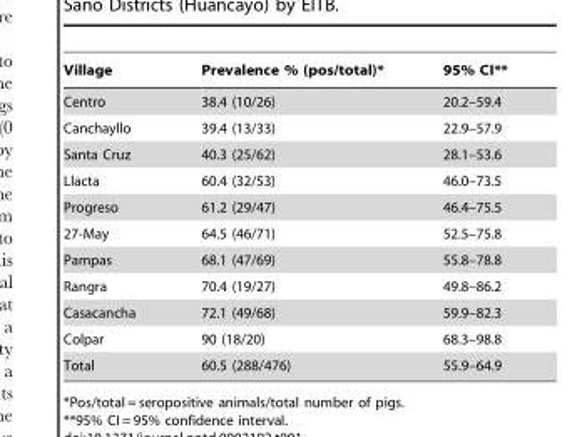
<table><thead><tr><td>Village</td><td>Prevalence % (pos/total)*</td><td>95% CI**</td></tr></thead><tbody><tr><td>Centro</td><td>38.4 (10/26)</td><td>20.2–59.4</td></tr><tr><td>Canchayllo</td><td>39.4 (13/33)</td><td>22.9–57.9</td></tr><tr><td>Santa Cruz</td><td>40.3 (25/62)</td><td>28.1–53.6</td></tr><tr><td>Llacta</td><td>60.4 (32/53)</td><td>46.0–73.5</td></tr><tr><td>Progreso</td><td>61.2 (29/47)</td><td>46.4–75.5</td></tr><tr><td>27-May</td><td>64.5 (46/71)</td><td>52.5–75.8</td></tr><tr><td>Pampas</td><td>68.1 (47/69)</td><td>55.8–78.8</td></tr><tr><td>Rangra</td><td>70.4 (19/27)</td><td>49.8–86.2</td></tr><tr><td>Casacancha</td><td>72.1 (49/68)</td><td>59.9–82.3</td></tr><tr><td>Colpar</td><td>90 (18/20)</td><td>68.3–98.8</td></tr><tr><td>Total</td><td>60.5 (288/476)</td><td>55.9–64.9</td></tr></tbody></table>